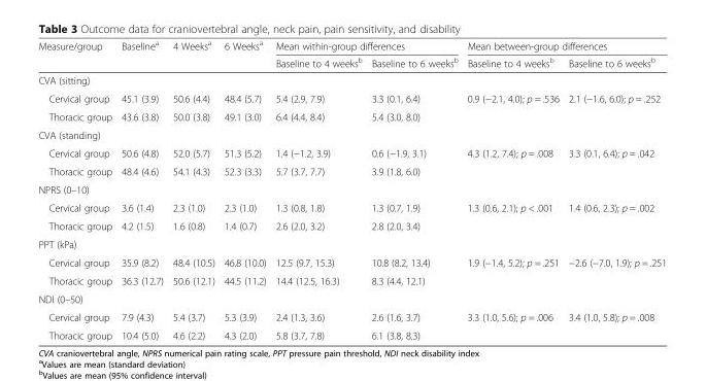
<table><thead><tr><td rowspan="2">Measure/group</td><td rowspan="2">Baseline<sup>a</sup></td><td rowspan="2">4 Weeks<sup>a</sup></td><td rowspan="2">6 Weeks<sup>a</sup></td><td colspan="2">Mean within-group differences</td><td colspan="2">Mean between-group differences</td></tr><tr><td>Baseline to 4 weeks<sup>b</sup></td><td>Baseline to 6 weeks<sup>b</sup></td><td>Baseline to 4 weeks<sup>b</sup></td><td>Baseline to 6 weeks<sup>b</sup></td></tr></thead><tbody><tr><td colspan="8">CVA (sitting)</td></tr><tr><td>Cervical group</td><td>45.1 (3.9)</td><td>50.6 (4.4)</td><td>48.4 (5.7)</td><td>5.4 (2.9, 7.9)</td><td>3.3 (0.1, 6.4)</td><td rowspan="2">0.9 (−2.1, 4.0); p = .536</td><td rowspan="2">2.1 (−1.6, 6.0); p = .252</td></tr><tr><td>Thoracic group</td><td>43.6 (3.8)</td><td>50.0 (3.8)</td><td>49.1 (3.0)</td><td>6.4 (4.4, 8.4)</td><td>5.4 (3.0, 8.0)</td></tr><tr><td colspan="8">CVA (standing)</td></tr><tr><td>Cervical group</td><td>50.6 (4.8)</td><td>52.0 (5.7)</td><td>51.3 (5.2)</td><td>1.4 (−1.2, 3.9)</td><td>0.6 (−1.9, 3.1)</td><td rowspan="2">4.3 (1.2, 7.4); p = .008</td><td rowspan="2">3.3 (0.1, 6.4); p = .042</td></tr><tr><td>Thoracic group</td><td>48.4 (4.6)</td><td>54.1 (4.3)</td><td>52.3 (3.3)</td><td>5.7 (3.7, 7.7)</td><td>3.9 (1.8, 6.0)</td></tr><tr><td colspan="8">NPRS (0–10)</td></tr><tr><td>Cervical group</td><td>3.6 (1.4)</td><td>2.3 (1.0)</td><td>2.3 (1.0)</td><td>1.3 (0.8, 1.8)</td><td>1.3 (0.7, 1.9)</td><td rowspan="2">1.3 (0.6, 2.1); p &lt; .001</td><td rowspan="2">1.4 (0.6, 2.3); p = .002</td></tr><tr><td>Thoracic group</td><td>4.2 (1.5)</td><td>1.6 (0.8)</td><td>1.4 (0.7)</td><td>2.6 (2.0, 3.2)</td><td>2.8 (2.0, 3.4)</td></tr><tr><td colspan="8">PPT (kPa)</td></tr><tr><td>Cervical group</td><td>35.9 (8.2)</td><td>48.4 (10.5)</td><td>46.8 (10.0)</td><td>12.5 (9.7, 15.3)</td><td>10.8 (8.2, 13.4)</td><td rowspan="2">1.9 (−1.4, 5.2); p = .251</td><td rowspan="2">−2.6 (−7.0, 1.9); p = .251</td></tr><tr><td>Thoracic group</td><td>36.3 (12.7)</td><td>50.6 (12.1)</td><td>44.5 (11.2)</td><td>14.4 (12.5, 16.3)</td><td>8.3 (4.4, 12.1)</td></tr><tr><td colspan="8">NDI (0–50)</td></tr><tr><td>Cervical group</td><td>7.9 (4.3)</td><td>5.4 (3.7)</td><td>5.3 (3.9)</td><td>2.4 (1.3, 3.6)</td><td>2.6 (1.6, 3.7)</td><td rowspan="2">3.3 (1.0, 5.6); p = .006</td><td rowspan="2">3.4 (1.0, 5.8); p = .008</td></tr><tr><td>Thoracic group</td><td>10.4 (5.0)</td><td>4.6 (2.2)</td><td>4.3 (2.0)</td><td>5.8 (3.7, 7.8)</td><td>6.1 (3.8, 8.3)</td></tr></tbody></table>